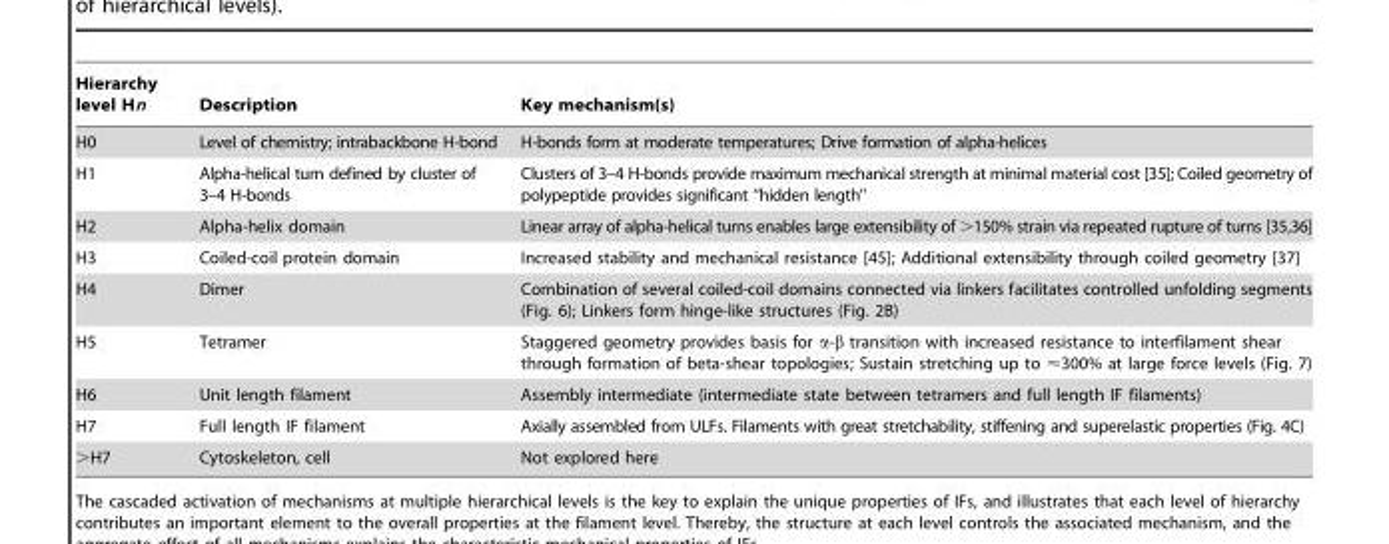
<table><thead><tr><td>Hierarchy level Hn</td><td>Description</td><td>Key mechanism(s)</td></tr></thead><tbody><tr><td>H0</td><td>Level of chemistry; intrabackbone H-bond</td><td>H-bonds form at moderate temperatures; Drive formation of alpha-helices</td></tr><tr><td>H1</td><td>Alpha-helical turn defined by cluster of 3–4 H-bonds</td><td>Clusters of 3–4 H-bonds provide maximum mechanical strength at minimal material cost [35]; Coiled geometry of polypeptide provides significant ‘‘hidden length’’</td></tr><tr><td>H2</td><td>Alpha-helix domain</td><td>Linear array of alpha-helical turns enables large extensibility of .150% strain via repeated rupture of turns [35,36]</td></tr><tr><td>H3</td><td>Coiled-coil protein domain</td><td>Increased stability and mechanical resistance [45]; Additional extensibility through coiled geometry [37]</td></tr><tr><td>H4</td><td>Dimer</td><td>Combination of several coiled-coil domains connected via linkers facilitates controlled unfolding segments (Fig. 6); Linkers form hinge-like structures (Fig. 2B)</td></tr><tr><td>H5</td><td>Tetramer</td><td>Staggered geometry provides basis for a-b transition with increased resistance to interfilament shear through formation of beta-shear topologies; Sustain stretching up to &lt;300% at large force levels (Fig. 7)</td></tr><tr><td>H6</td><td>Unit length filament</td><td>Assembly intermediate (intermediate state between tetramers and full length IF filaments)</td></tr><tr><td>H7</td><td>Full length IF filament</td><td>Axially assembled from ULFs. Filaments with great stretchability, stiffening and superelastic properties (Fig. 4C)</td></tr><tr><td>&gt;H7</td><td>Cytoskeleton, cell</td><td>Not explored here</td></tr></tbody></table>